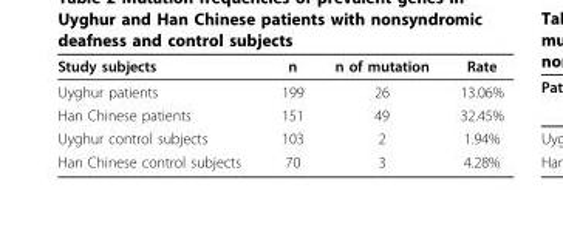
<table><thead><tr><td>Study subjects</td><td>n</td><td>n of mutation</td><td>Rate</td></tr></thead><tbody><tr><td>Uyghur patients</td><td>199</td><td>26</td><td>13.06%</td></tr><tr><td>Han Chinese patients</td><td>151</td><td>49</td><td>32.45%</td></tr><tr><td>Uyghur control subjects</td><td>103</td><td>2</td><td>1.94%</td></tr><tr><td>Han Chinese control subjects</td><td>70</td><td>3</td><td>4.28%</td></tr></tbody></table>